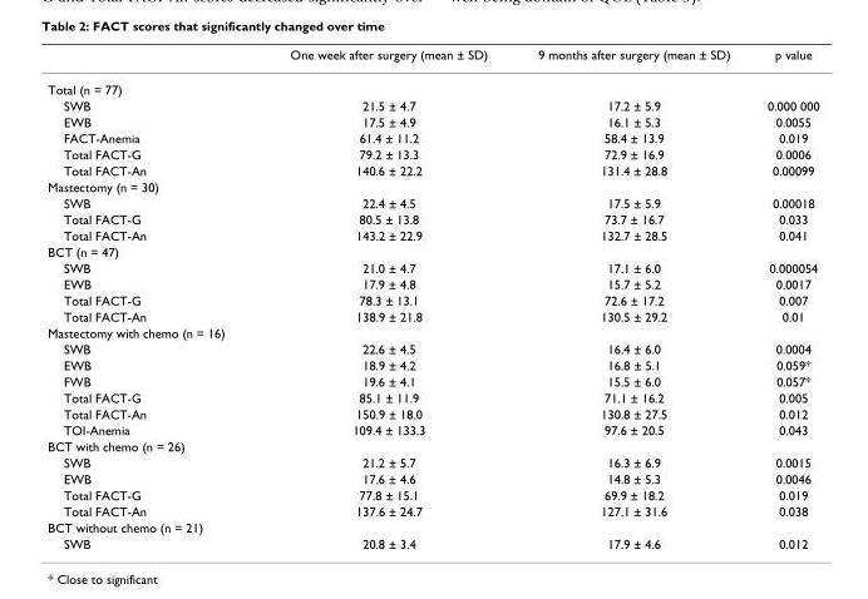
<table><thead><tr><td></td><td>One week after surgery (mean ± SD)</td><td>9 months after surgery (mean ± SD)</td><td>p value</td></tr></thead><tbody><tr><td colspan="4">Total (n = 77)</td></tr><tr><td>SWB</td><td>21.5 ± 4.7</td><td>17.2 ± 5.9</td><td>0.000 000</td></tr><tr><td>EWB</td><td>17.5 ± 4.9</td><td>16.1 ± 5.3</td><td>0.0055</td></tr><tr><td>FACT-Anemia</td><td>61.4 ± 11.2</td><td>58.4 ± 13.9</td><td>0.019</td></tr><tr><td>Total FACT-G</td><td>79.2 ± 13.3</td><td>72.9 ± 16.9</td><td>0.0006</td></tr><tr><td>Total FACT-An</td><td>140.6 ± 22.2</td><td>131.4 ± 28.8</td><td>0.00099</td></tr><tr><td colspan="4">Mastectomy (n = 30)</td></tr><tr><td>SWB</td><td>22.4 ± 4.5</td><td>17.5 ± 5.9</td><td>0.00018</td></tr><tr><td>Total FACT-G</td><td>80.5 ± 13.8</td><td>73.7 ± 16.7</td><td>0.033</td></tr><tr><td>Total FACT-An</td><td>143.2 ± 22.9</td><td>132.7 ± 28.5</td><td>0.041</td></tr><tr><td colspan="4">BCT (n = 47)</td></tr><tr><td>SWB</td><td>21.0 ± 4.7</td><td>17.1 ± 6.0</td><td>0.000054</td></tr><tr><td>EWB</td><td>17.9 ± 4.8</td><td>15.7 ± 5.2</td><td>0.0017</td></tr><tr><td>Total FACT-G</td><td>78.3 ± 13.1</td><td>72.6 ± 17.2</td><td>0.007</td></tr><tr><td>Total FACT-An</td><td>138.9 ± 21.8</td><td>130.5 ± 29.2</td><td>0.01</td></tr><tr><td colspan="4">Mastectomy with chemo (n = 16)</td></tr><tr><td>SWB</td><td>22.6 ± 4.5</td><td>16.4 ± 6.0</td><td>0.0004</td></tr><tr><td>EWB</td><td>18.9 ± 4.2</td><td>16.8 ± 5.1</td><td>0.059*</td></tr><tr><td>FWB</td><td>19.6 ± 4.1</td><td>15.5 ± 6.0</td><td>0.057*</td></tr><tr><td>Total FACT-G</td><td>85.1 ± 11.9</td><td>71.1 ± 16.2</td><td>0.005</td></tr><tr><td>Total FACT-An</td><td>150.9 ± 18.0</td><td>130.8 ± 27.5</td><td>0.012</td></tr><tr><td>TOI-Anemia</td><td>109.4 ± 133.3</td><td>97.6 ± 20.5</td><td>0.043</td></tr><tr><td colspan="4">BCT with chemo (n = 26)</td></tr><tr><td>SWB</td><td>21.2 ± 5.7</td><td>16.3 ± 6.9</td><td>0.0015</td></tr><tr><td>EWB</td><td>17.6 ± 4.6</td><td>14.8 ± 5.3</td><td>0.0046</td></tr><tr><td>Total FACT-G</td><td>77.8 ± 15.1</td><td>69.9 ± 18.2</td><td>0.019</td></tr><tr><td>Total FACT-An</td><td>137.6 ± 24.7</td><td>127.1 ± 31.6</td><td>0.038</td></tr><tr><td colspan="4">BCT without chemo (n = 21)</td></tr><tr><td>SWB</td><td>20.8 ± 3.4</td><td>17.9 ± 4.6</td><td>0.012</td></tr></tbody></table>